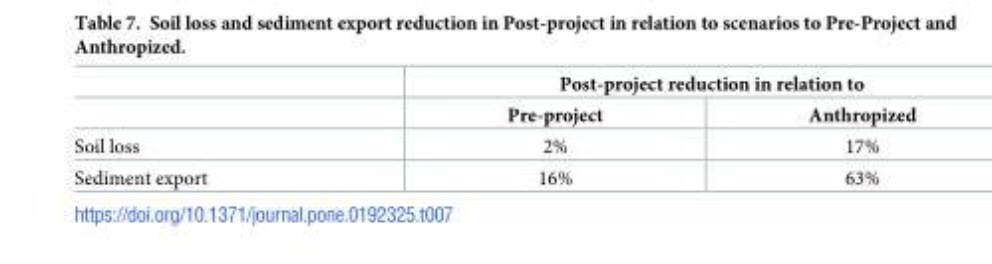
<table><thead><tr><td rowspan="2"></td><td colspan="2">Post-project reduction in relation to</td></tr><tr><td>Pre-project</td><td>Anthropized</td></tr></thead><tbody><tr><td>Soil loss</td><td>2%</td><td>17%</td></tr><tr><td>Sediment export</td><td>16%</td><td>63%</td></tr></tbody></table>